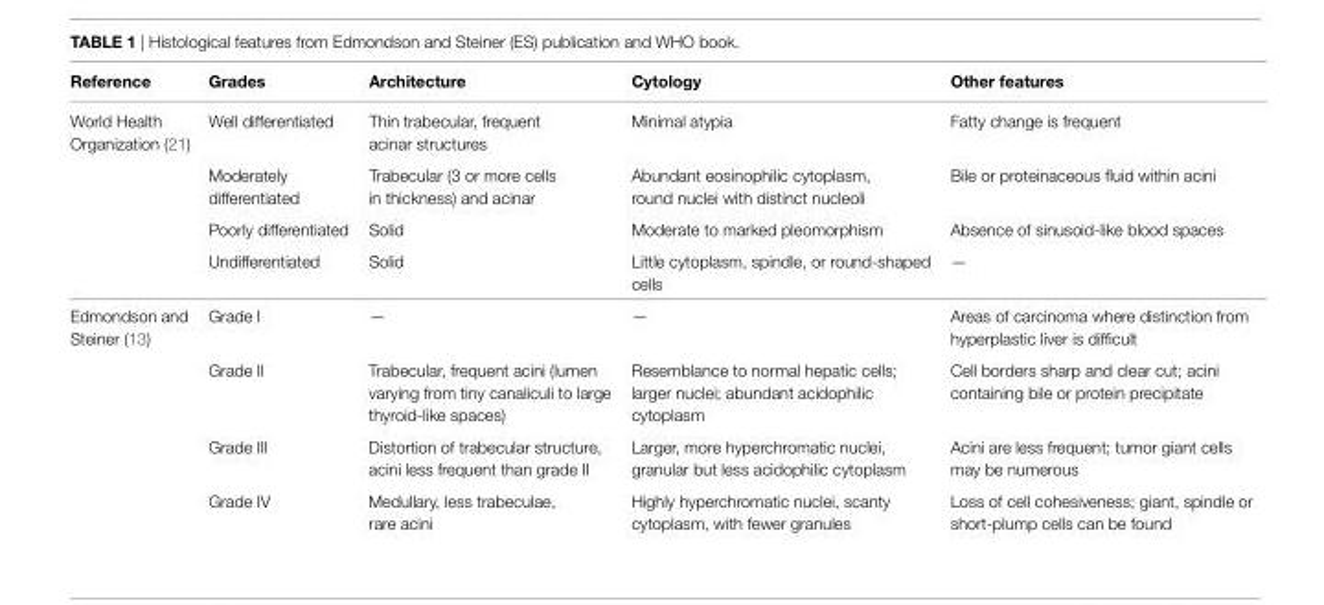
<table><thead><tr><td>Reference</td><td>Grades</td><td>architecture</td><td>cytology</td><td>Other features</td></tr></thead><tbody><tr><td rowspan="4">World Health Organization (21)</td><td>Well differentiated</td><td>Thin trabecular, frequent acinar structures</td><td>Minimal atypia</td><td>Fatty change is frequent</td></tr><tr><td>Moderately differentiated</td><td>Trabecular (3 or more cells in thickness) and acinar</td><td>Abundant eosinophilic cytoplasm, round nuclei with distinct nucleoli</td><td>Bile or proteinaceous fluid within acini</td></tr><tr><td>Poorly differentiated</td><td>Solid</td><td>Moderate to marked pleomorphism</td><td>Absence of sinusoid-like blood spaces</td></tr><tr><td>Undifferentiated</td><td>Solid</td><td>Little cytoplasm, spindle, or round-shaped cells</td><td>—</td></tr><tr><td rowspan="4">Edmondson and Steiner (13)</td><td>Grade I</td><td>—</td><td>—</td><td>Areas of carcinoma where distinction from hyperplastic liver is difficult</td></tr><tr><td>Grade II</td><td>Trabecular, frequent acini (lumen varying from tiny canaliculi to large thyroid-like spaces)</td><td>Resemblance to normal hepatic cells; larger nuclei; abundant acidophilic cytoplasm</td><td>Cell borders sharp and clear cut; acini containing bile or protein precipitate</td></tr><tr><td>Grade III</td><td>Distortion of trabecular structure, acini less frequent than grade II</td><td>Larger, more hyperchromatic nuclei, granular but less acidophilic cytoplasm</td><td>Acini are less frequent; tumor giant cells may be numerous</td></tr><tr><td>Grade IV</td><td>Medullary, less trabeculae, rare acini</td><td>Highly hyperchromatic nuclei, scanty cytoplasm, with fewer granules</td><td>Loss of cell cohesiveness; giant, spindle or short-plump cells can be found</td></tr></tbody></table>